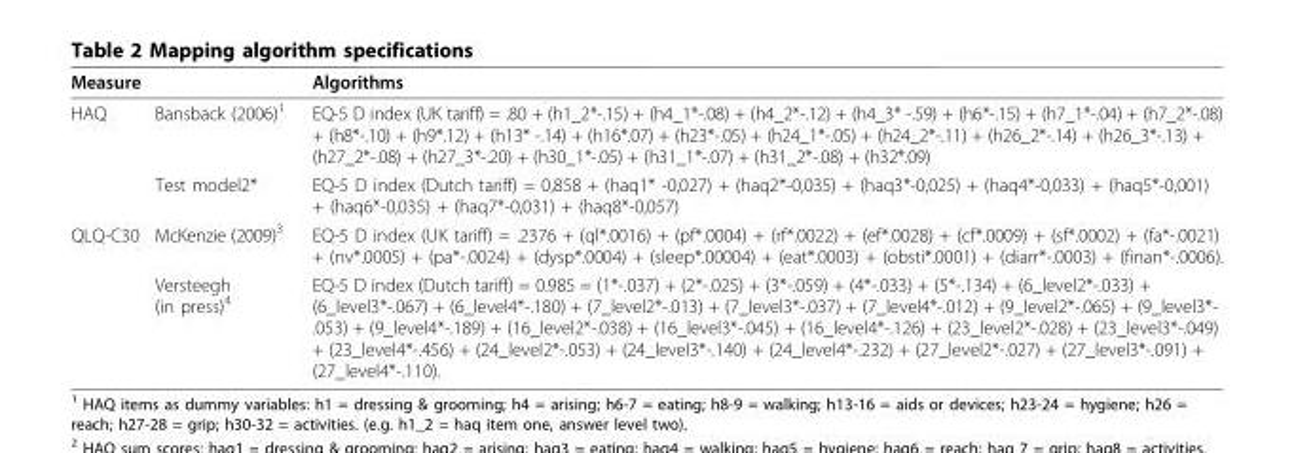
<table><thead><tr><td>Measure</td><td></td><td>Algorithms</td></tr></thead><tbody><tr><td rowspan="2">HAQ</td><td>Bansback (2006)<sup>1</sup></td><td>EQ-5 D index (UK tariff) = .80 + (h1_2*-.15) + (h4_1*-.08) + (h4_2*-.12) + (h4_3* -.59) + (h6*-.15) + (h7_1*-.04) + (h7_2*-.08) + (h8*-.10) + (h9*.12) + (h13* -.14) + (h16*.07) + (h23*-.05) + (h24_1*-.05) + (h24_2*-.11) + (h26_2*-.14) + (h26_3*-.13) + (h27_2*-.08) + (h27_3*-.20) + (h30_1*-.05) + (h31_1*-.07) + (h31_2*-.08) + (h32*.09)</td></tr><tr><td>Test model2*</td><td>EQ-5 D index (Dutch tariff) = 0,858 + (haq1* -0,027) + (haq2*-0,035) + (haq3*-0,025) + (haq4*-0,033) + (haq5*-0,001) + (haq6*-0,035) + (haq7*-0,031) + (haq8*-0,057)</td></tr><tr><td rowspan="2">QLQ-C30</td><td>McKenzie (2009)<sup>3</sup></td><td>EQ-5 D index (UK tariff) = .2376 + (ql*.0016) + (pf*.0004) + (rf*.0022) + (ef*.0028) + (cf*.0009) + (sf*.0002) + (fa*-.0021) + (nv*.0005) + (pa*-.0024) + (dysp*.0004) + (sleep*.00004) + (eat*.0003) + (obsti*.0001) + (diarr*-.0003) + (finan*-.0006).</td></tr><tr><td>Versteegh (in press)<sup>4</sup></td><td>EQ-5 D index (Dutch tariff) = 0.985 = (1*-.037) + (2*-.025) + (3*-.059) + (4*-.033) + (5*-.134) + (6_level2*-.033) + (6_level3*-.067) + (6_level4*-.180) + (7_level2*-.013) + (7_level3*-.037) + (7_level4*-.012) + (9_level2*-.065) + (9_level3*- .053) + (9_level4*-.189) + (16_level2*-.038) + (16_level3*-.045) + (16_level4*-.126) + (23_level2*-.028) + (23_level3*-.049) + (23_level4*-.456) + (24_level2*-.053) + (24_level3*-.140) + (24_level4*-.232) + (27_level2*-.027) + (27_level3*-.091) + (27_level4*-.110).</td></tr></tbody></table>